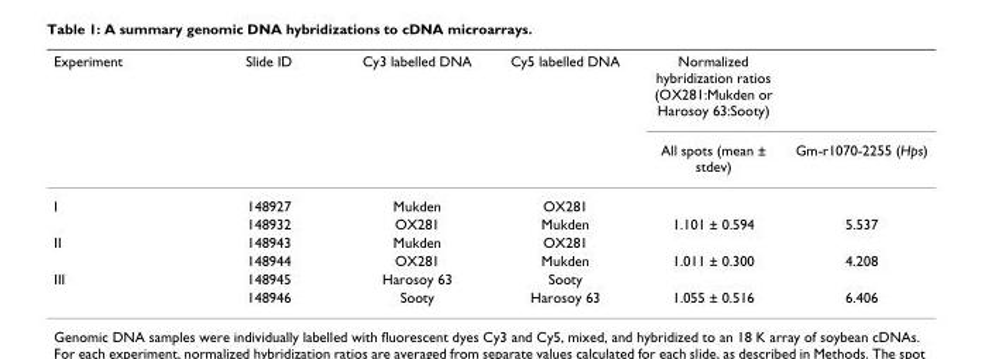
<table><thead><tr><td rowspan="2">Experiment</td><td rowspan="2">Slide ID</td><td rowspan="2">Cy3 labelled DNA</td><td rowspan="2">Cy5 labelled DNA</td><td rowspan="2">Normalized hybridization ratios (OX281:Mukden or Harosoy 63:Sooty) All spots (mean ± stdev)</td><td rowspan="2">Gm-r1070-2255 (Hps)</td></tr><tr></tr></thead><tbody><tr><td rowspan="2">I</td><td>148927</td><td>Mukden</td><td>OX281</td><td></td><td></td></tr><tr><td>148932</td><td>OX281</td><td>Mukden</td><td>1.101 ± 0.594</td><td>5.537</td></tr><tr><td rowspan="2">II</td><td>148943</td><td>Mukden</td><td>OX281</td><td></td><td></td></tr><tr><td>148944</td><td>OX281</td><td>Mukden</td><td>1.011 ± 0.300</td><td>4.208</td></tr><tr><td rowspan="2">III</td><td>148945</td><td>Harosoy 63</td><td>Sooty</td><td></td><td></td></tr><tr><td>148946</td><td>Sooty</td><td>Harosoy 63</td><td>1.055 ± 0.516</td><td>6.406</td></tr></tbody></table>